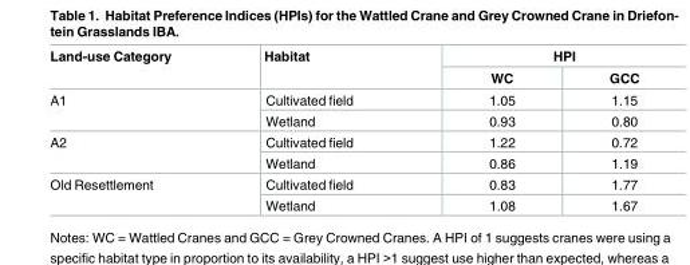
<table><thead><tr><td rowspan="2">Land-use Category</td><td rowspan="2">Habitat</td><td colspan="2">HPI</td></tr><tr><td>WC</td><td>GCC</td></tr></thead><tbody><tr><td rowspan="2">A1</td><td>Cultivated field</td><td>1.05</td><td>1.15</td></tr><tr><td>Wetland</td><td>0.93</td><td>0.80</td></tr><tr><td rowspan="2">A2</td><td>Cultivated field</td><td>1.22</td><td>0.72</td></tr><tr><td>Wetland</td><td>0.86</td><td>1.19</td></tr><tr><td rowspan="2">Old Resettlement</td><td>Cultivated field</td><td>0.83</td><td>1.77</td></tr><tr><td>Wetland</td><td>1.08</td><td>1.67</td></tr></tbody></table>